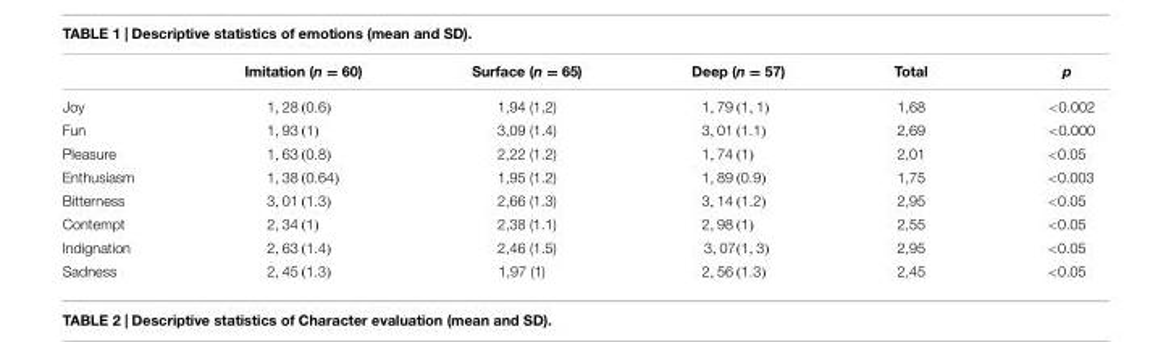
<table><thead><tr><td></td><td>Imitation (n = 60)</td><td>Surface (n = 65)</td><td>Deep (n = 57)</td><td>Total</td><td>p</td></tr></thead><tbody><tr><td>Joy</td><td>1, 28 (0.6)</td><td>1,94 (1,2)</td><td>1, 79 (1, 1)</td><td>1,68</td><td>&lt;0.002</td></tr><tr><td>Fun</td><td>1, 93 (1)</td><td>3,09 (1.4)</td><td>3, 01 (1.1)</td><td>2,69</td><td>&lt;0.000</td></tr><tr><td>Pleasure</td><td>1, 63 (0.8)</td><td>2,22 (1.2)</td><td>1, 74 (1)</td><td>2,01</td><td>&lt;0.05</td></tr><tr><td>Enthusiasm</td><td>1, 38 (0.64)</td><td>1,95 (1.2)</td><td>1, 89 (0.9)</td><td>1,75</td><td>&lt;0.003</td></tr><tr><td>Bitterness</td><td>3, 01 (1.3)</td><td>2,66 (1.3)</td><td>3, 14 (1.2)</td><td>2,95</td><td>&lt;0.05</td></tr><tr><td>Contempt</td><td>2, 34 (1)</td><td>2,38 (1.1)</td><td>2, 98 (1)</td><td>2,55</td><td>&lt;0.05</td></tr><tr><td>Indignation</td><td>2, 63 (1.4)</td><td>2,46 (1.5)</td><td>3, 07(1, 3)</td><td>2,95</td><td>&lt;0.05</td></tr><tr><td>Sadness</td><td>2, 45 (1.3)</td><td>1,97 (1)</td><td>2, 56 (1.3)</td><td>2,45</td><td>&lt;0.05</td></tr></tbody></table>